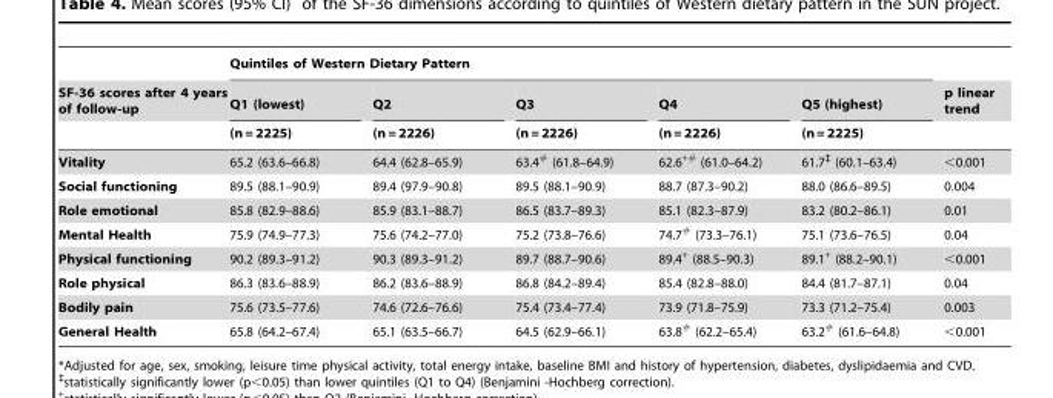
<table><thead><tr><td rowspan="3">SF-36 scores after 4 years of follow-up</td><td colspan="5">Quintiles of Western Dietary Pattern</td><td rowspan="3">p linear trend</td></tr><tr><td rowspan="2">Q1 (lowest) (n = 2225)</td><td rowspan="2">Q2 (n = 2226)</td><td rowspan="2">Q3 (n = 2226)</td><td rowspan="2">Q4 (n = 2226)</td><td rowspan="2">Q5 (highest) (n = 2225)</td></tr><tr></tr></thead><tbody><tr><td>Vitality</td><td>65.2 (63.6–66.8)</td><td>64.4 (62.8–65.9)</td><td>63.4# (61.8–64.9)</td><td>62.6<sup>+#</sup> (61.0–64.2)</td><td>61.7‡ (60.1–63.4)</td><td>&lt;0.001</td></tr><tr><td>Social functioning</td><td>89.5 (88.1–90.9)</td><td>89.4 (97.9–90.8)</td><td>89.5 (88.1–90.9)</td><td>88.7 (87.3–90.2)</td><td>88.0 (86.6–89.5)</td><td>0.004</td></tr><tr><td>Role emotional</td><td>85.8 (82.9–88.6)</td><td>85.9 (83.1–88.7)</td><td>86.5 (83.7–89.3)</td><td>85.1 (82.3–87.9)</td><td>83.2 (80.2–86.1)</td><td>0.01</td></tr><tr><td>Mental Health</td><td>75.9 (74.9–77.3)</td><td>75.6 (74.2–77.0)</td><td>75.2 (73.8–76.6)</td><td>74.7# (73.3–76.1)</td><td>75.1 (73.6–76.5)</td><td>0.04</td></tr><tr><td>Physical functioning</td><td>90.2 (89.3–91.2)</td><td>90.3 (89.3–91.2)</td><td>89.7 (88.7–90.6)</td><td>89.4+ (88.5–90.3)</td><td>89.1+ (88.2–90.1)</td><td>&lt;0.001</td></tr><tr><td>Role physical</td><td>86.3 (83.6–88.9)</td><td>86.2 (83.6–88.9)</td><td>86.8 (84.2–89.4)</td><td>85.4 (82.8–88.0)</td><td>84.4 (81.7–87.1)</td><td>0.04</td></tr><tr><td>Bodily pain</td><td>75.6 (73.5–77.6)</td><td>74.6 (72.6–76.6)</td><td>75.4 (73.4–77.4)</td><td>73.9 (71.8–75.9)</td><td>73.3 (71.2–75.4)</td><td>0.003</td></tr><tr><td>General Health</td><td>65.8 (64.2–67.4)</td><td>65.1 (63.5–66.7)</td><td>64.5 (62.9–66.1)</td><td>63.8# (62.2–65.4)</td><td>63.2# (61.6–64.8)</td><td>&lt;0.001</td></tr></tbody></table>